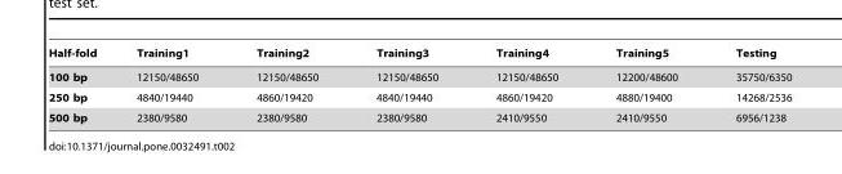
<table><thead><tr><td>Half-fold</td><td>Training1</td><td>Training2</td><td>Training3</td><td>Training4</td><td>Training5</td><td>Testing</td></tr></thead><tbody><tr><td>100 bp</td><td>12150/48650</td><td>12150/48650</td><td>12150/48650</td><td>12150/48650</td><td>12200/48600</td><td>35750/6350</td></tr><tr><td>250 bp</td><td>4840/19440</td><td>4860/19420</td><td>4840/19440</td><td>4860/19420</td><td>4880/19400</td><td>14268/2536</td></tr><tr><td>500 bp</td><td>2380/9580</td><td>2380/9580</td><td>2380/9580</td><td>2410/9550</td><td>2410/9550</td><td>6956/1238</td></tr></tbody></table>